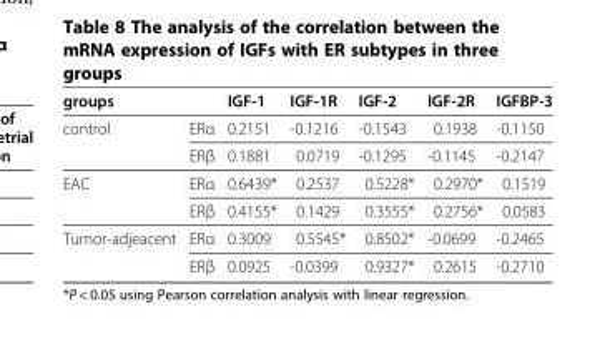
<table><thead><tr><td>groups groups</td><td></td><td>IGF-1</td><td>IGF-1R</td><td>IGF-2</td><td>IGF-2R</td><td>IGFBP-3</td></tr></thead><tbody><tr><td rowspan="2">control</td><td>ERα</td><td>0.2151</td><td>-0.1216</td><td>-0.1543</td><td>0.1938</td><td>-0.1150</td></tr><tr><td>ERβ</td><td>0.1881</td><td>0.0719</td><td>-0.1295</td><td>-0.1145</td><td>-0.2147</td></tr><tr><td rowspan="2">EAC</td><td>ERα</td><td>0.6439*</td><td>0.2537</td><td>0.5228*</td><td>0.2970*</td><td>0.1519</td></tr><tr><td>ERβ</td><td>0.4155*</td><td>0.1429</td><td>0.3555*</td><td>0.2756*</td><td>0.0583</td></tr><tr><td rowspan="2">Tumor-adjeacent</td><td>ERα</td><td>0.3009</td><td>0.5545*</td><td>0.8502*</td><td>-0.0699</td><td>-0.2465</td></tr><tr><td>ERβ</td><td>0.0925</td><td>-0.0399</td><td>0.9327*</td><td>0.2615</td><td>-0.2710</td></tr></tbody></table>